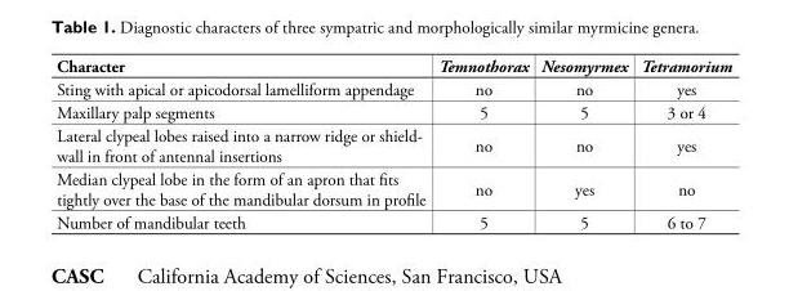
<table><thead><tr><td>Character</td><td>Temnothorax</td><td>Nesomyrmex</td><td>Tetramorium</td></tr></thead><tbody><tr><td>Sting with apical or apicodorsal lamelliform appendage</td><td>no</td><td>no</td><td>yes</td></tr><tr><td>Maxillary palp segments</td><td>5</td><td>5</td><td>3 or 4</td></tr><tr><td>Lateral clypeal lobes raised into a narrow ridge or shield- wall in front of antennal insertions</td><td>no</td><td>no</td><td>yes</td></tr><tr><td>Median clypeal lobe in the form of an apron that fits tightly over the base of the mandibular dorsum in profile</td><td>no</td><td>yes</td><td>no</td></tr><tr><td>Number of mandibular teeth</td><td>5</td><td>5</td><td>6 to 7</td></tr></tbody></table>